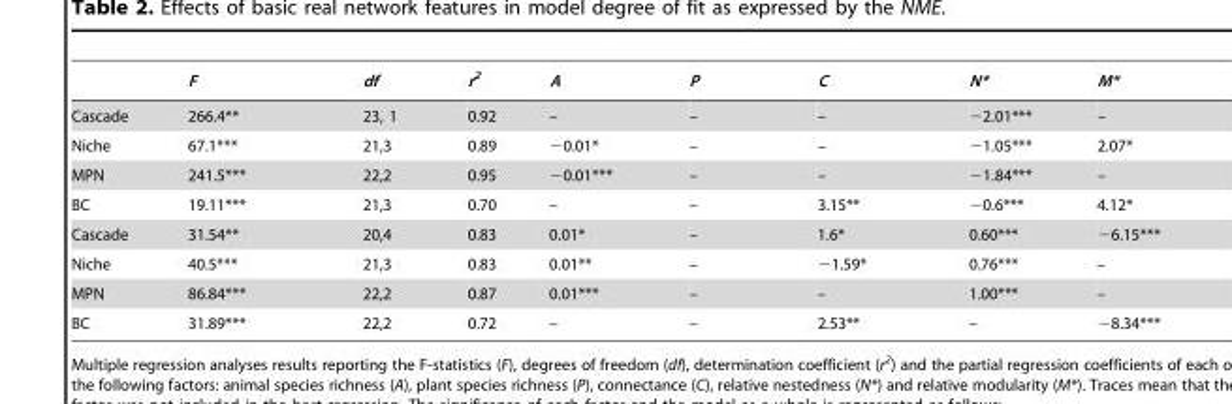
<table><thead><tr><td></td><td>F</td><td>df</td><td>r<sup>2</sup></td><td>A</td><td>P</td><td>C</td><td>N*</td><td>M*</td></tr></thead><tbody><tr><td>Cascade</td><td>266.4**</td><td>23, 1</td><td>0.92</td><td>–</td><td>–</td><td>–</td><td>−2.01***</td><td>–</td></tr><tr><td>Niche</td><td>67.1***</td><td>21,3</td><td>0.89</td><td>−0.01*</td><td>–</td><td>–</td><td>−1.05***</td><td>2.07*</td></tr><tr><td>MPN</td><td>241.5***</td><td>22,2</td><td>0.95</td><td>−0.01***</td><td>–</td><td>–</td><td>−1.84***</td><td>–</td></tr><tr><td>BC</td><td>19.11***</td><td>21,3</td><td>0.70</td><td>–</td><td>–</td><td>3.15**</td><td>−0.6***</td><td>4.12*</td></tr><tr><td>Cascade</td><td>31.54**</td><td>20,4</td><td>0.83</td><td>0.01*</td><td>–</td><td>1.6*</td><td>0.60***</td><td>−6.15***</td></tr><tr><td>Niche</td><td>40.5***</td><td>21,3</td><td>0.83</td><td>0.01**</td><td>–</td><td>−1.59*</td><td>0.76***</td><td>–</td></tr><tr><td>MPN</td><td>86.84***</td><td>22,2</td><td>0.87</td><td>0.01***</td><td>–</td><td>–</td><td>1.00***</td><td>–</td></tr><tr><td>BC</td><td>31.89***</td><td>22,2</td><td>0.72</td><td>–</td><td>–</td><td>2.53**</td><td>–</td><td>−8.34***</td></tr></tbody></table>